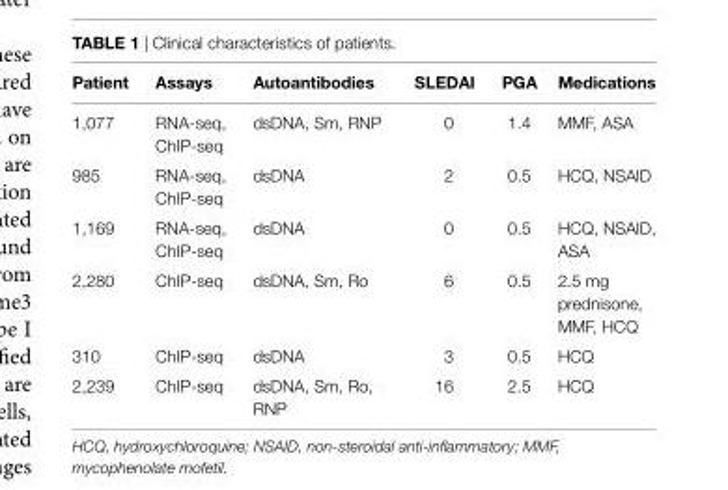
<table><thead><tr><td>Patient</td><td>assays</td><td>autoantibodies</td><td>sleDai</td><td>Pga</td><td>Medications</td></tr></thead><tbody><tr><td>1,077</td><td>RNA-seq, ChIP-seq</td><td>dsDNA, Sm, RNP</td><td>0</td><td>1.4</td><td>MMF, ASA</td></tr><tr><td>985</td><td>RNA-seq, ChIP-seq</td><td>dsDNA</td><td>2</td><td>0.5</td><td>HCQ, NSAID</td></tr><tr><td>1,169</td><td>RNA-seq, ChIP-seq</td><td>dsDNA</td><td>0</td><td>0.5</td><td>HCQ, NSAID, ASA</td></tr><tr><td>2,280</td><td>ChIP-seq</td><td>dsDNA, Sm, Ro</td><td>6</td><td>0.5</td><td>2.5 mg prednisone, MMF, HCQ</td></tr><tr><td>310</td><td>ChIP-seq</td><td>dsDNA</td><td>3</td><td>0.5</td><td>HCQ</td></tr><tr><td>2,239</td><td>ChIP-seq</td><td>dsDNA, Sm, Ro, RNP</td><td>16</td><td>2.5</td><td>HCQ</td></tr></tbody></table>